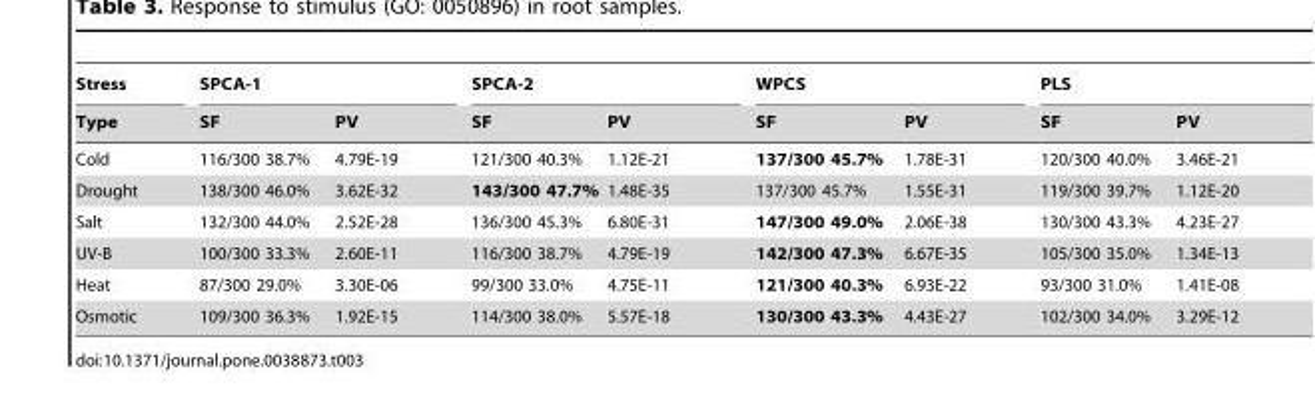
<table><thead><tr><td rowspan="2">Stress Type</td><td colspan="2">SPCA-1</td><td colspan="2">SPCA-2</td><td colspan="2">WPCS</td><td colspan="2">PLS</td></tr><tr><td>SF</td><td>PV</td><td>SF</td><td>PV</td><td>SF</td><td>PV</td><td>SF</td><td>PV</td></tr></thead><tbody><tr><td>Cold</td><td>116/300 38.7%</td><td>4.79E-19</td><td>121/300 40.3%</td><td>1.12E-21</td><td>137/300 45.7%</td><td>1.78E-31</td><td>120/300 40.0%</td><td>3.46E-21</td></tr><tr><td>Drought</td><td>138/300 46.0%</td><td>3.62E-32</td><td>143/300 47.7%</td><td>1.48E-35</td><td>137/300 45.7%</td><td>1.55E-31</td><td>119/300 39.7%</td><td>1.12E-20</td></tr><tr><td>Salt</td><td>132/300 44.0%</td><td>2.52E-28</td><td>136/300 45.3%</td><td>6.80E-31</td><td>147/300 49.0%</td><td>2.06E-38</td><td>130/300 43.3%</td><td>4.23E-27</td></tr><tr><td>UV-B</td><td>100/300 33.3%</td><td>2.60E-11</td><td>116/300 38.7%</td><td>4.79E-19</td><td>142/300 47.3%</td><td>6.67E-35</td><td>105/300 35.0%</td><td>1.34E-13</td></tr><tr><td>Heat</td><td>87/300 29.0%</td><td>3.30E-06</td><td>99/300 33.0%</td><td>4.75E-11</td><td>121/300 40.3%</td><td>6.93E-22</td><td>93/300 31.0%</td><td>1.41E-08</td></tr><tr><td>Osmotic</td><td>109/300 36.3%</td><td>1.92E-15</td><td>114/300 38.0%</td><td>5.57E-18</td><td>130/300 43.3%</td><td>4.43E-27</td><td>102/300 34.0%</td><td>3.29E-12</td></tr></tbody></table>